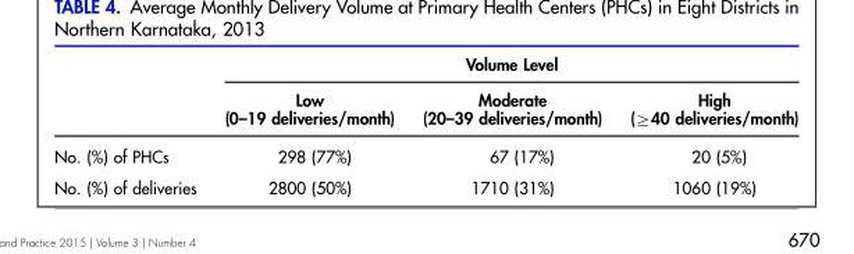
<table><thead><tr><td rowspan="2"></td><td colspan="3">Volume Level</td></tr><tr><td>Low (0–19 deliveries/month)</td><td>Moderate (20–39 deliveries/month)</td><td>High (≥40 deliveries/month)</td></tr></thead><tbody><tr><td>No. (%) of PHCs</td><td>298 (77%)</td><td>67 (17%)</td><td>20 (5%)</td></tr><tr><td>No. (%) of deliveries</td><td>2800 (50%)</td><td>1710 (31%)</td><td>1060 (19%)</td></tr></tbody></table>